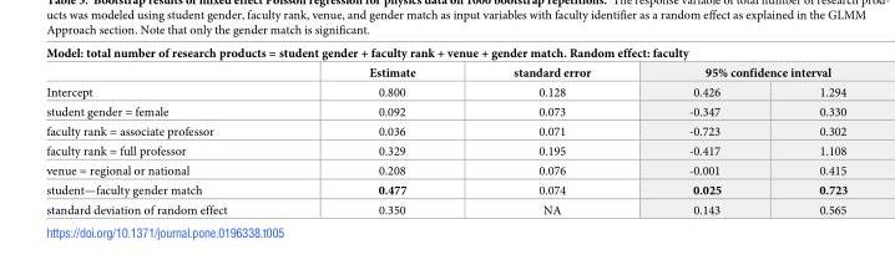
<table><thead><tr><td colspan="5">Model: total number of research products = student gender + faculty rank + venue + gender match. Random effect: faculty</td></tr><tr><td rowspan="2">Intercept</td><td rowspan="2">Estimate 0.800</td><td rowspan="2">standard error 0.128</td><td colspan="2">95% confidence interval</td></tr><tr><td>0.426</td><td>1.294</td></tr></thead><tbody><tr><td>student gender = female</td><td>0.092</td><td>0.073</td><td>-0.347</td><td>0.330</td></tr><tr><td>faculty rank = associate professor</td><td>0.036</td><td>0.071</td><td>-0.723</td><td>0.302</td></tr><tr><td>faculty rank = full professor</td><td>0.329</td><td>0.195</td><td>-0.417</td><td>1.108</td></tr><tr><td>venue = regional or national</td><td>0.208</td><td>0.076</td><td>-0.001</td><td>0.415</td></tr><tr><td>student—faculty gender match</td><td>0.477</td><td>0.074</td><td>0.025</td><td>0.723</td></tr><tr><td>standard deviation of random effect</td><td>0.350</td><td>NA</td><td>0.143</td><td>0.565</td></tr></tbody></table>